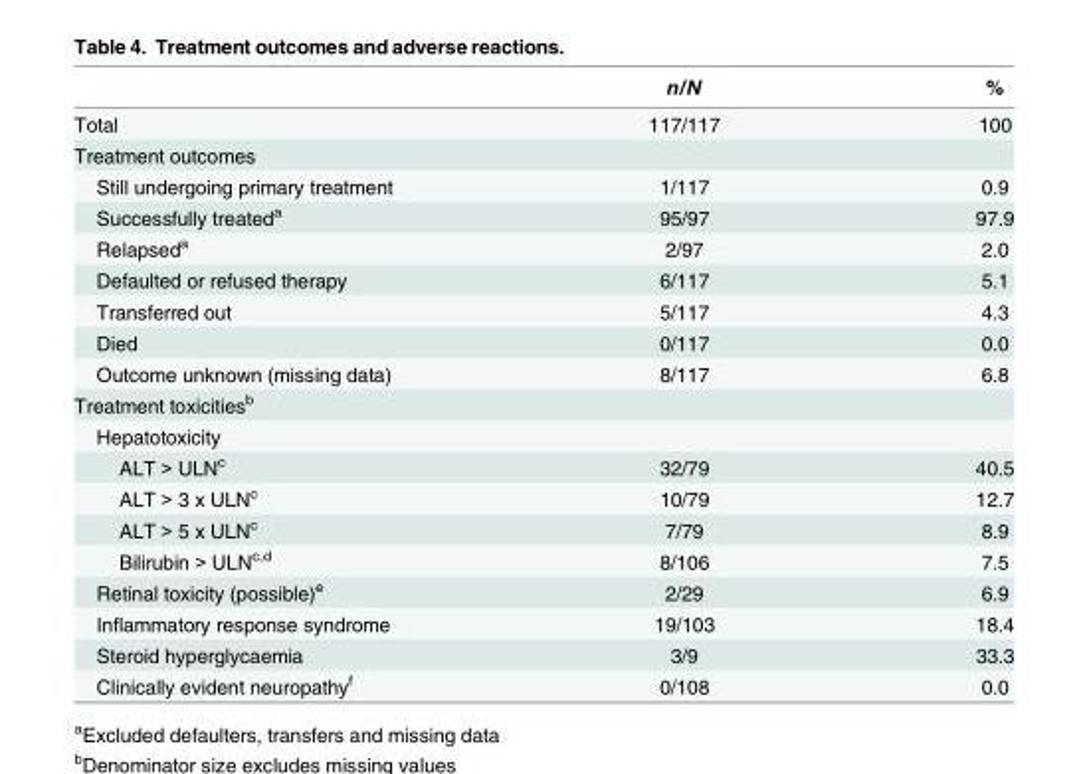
<table><thead><tr><td></td><td>n/N</td><td>%</td></tr></thead><tbody><tr><td>Total</td><td>117/117</td><td>100</td></tr><tr><td colspan="3">Treatment outcomes</td></tr><tr><td>Still undergoing primary treatment</td><td>1/117</td><td>0.9</td></tr><tr><td>Successfully treated<sup>a</sup></td><td>95/97</td><td>97.9</td></tr><tr><td>Relapsed<sup>a</sup></td><td>2/97</td><td>2.0</td></tr><tr><td>Defaulted or refused therapy</td><td>6/117</td><td>5.1</td></tr><tr><td>Transferred out</td><td>5/117</td><td>4.3</td></tr><tr><td>Died</td><td>0/117</td><td>0.0</td></tr><tr><td>Outcome unknown (missing data)</td><td>8/117</td><td>6.8</td></tr><tr><td colspan="3">Treatment toxicities<sup>b</sup></td></tr><tr><td colspan="3">Hepatotoxicity</td></tr><tr><td>ALT &gt; ULN<sup>c</sup></td><td>32/79</td><td>40.5</td></tr><tr><td>ALT &gt; 3 x ULN<sup>c</sup></td><td>10/79</td><td>12.7</td></tr><tr><td>ALT &gt; 5 x ULN<sup>c</sup></td><td>7/79</td><td>8.9</td></tr><tr><td>Bilirubin &gt; ULN<sup>c,d</sup></td><td>8/106</td><td>7.5</td></tr><tr><td>Retinal toxicity (possible)<sup>e</sup></td><td>2/29</td><td>6.9</td></tr><tr><td>Inflammatory response syndrome</td><td>19/103</td><td>18.4</td></tr><tr><td>Steroid hyperglycaemia</td><td>3/9</td><td>33.3</td></tr><tr><td>Clinically evident neuropathy<sup>f</sup></td><td>0/108</td><td>0.0</td></tr></tbody></table>